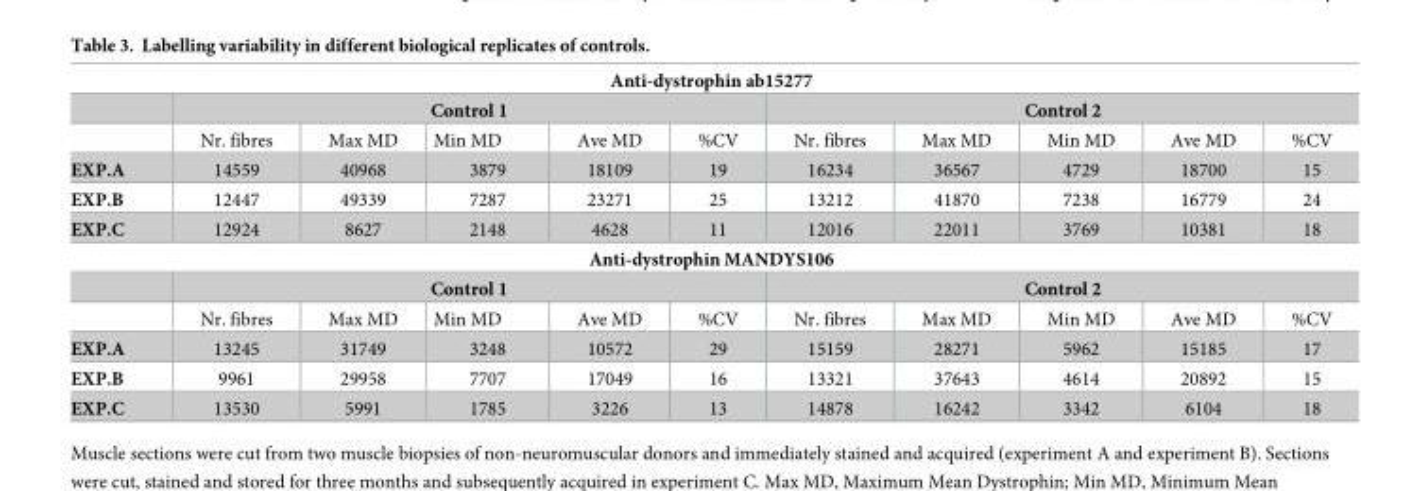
<table><tbody><tr><td colspan="11">Anti-dystrophin ab15277</td></tr><tr><td></td><td colspan="5">Control 1</td><td colspan="5">Control 2</td></tr><tr><td></td><td>Nr. fibres</td><td>Max MD</td><td>Min MD</td><td>Ave MD</td><td>%CV</td><td>Nr. fibres</td><td>Max MD</td><td>Min MD</td><td>Ave MD</td><td>%CV</td></tr><tr><td>EXP.A</td><td>14559</td><td>40968</td><td>3879</td><td>18109</td><td>19</td><td>16234</td><td>36567</td><td>4729</td><td>18700</td><td>15</td></tr><tr><td>EXP.B</td><td>12447</td><td>49339</td><td>7287</td><td>23271</td><td>25</td><td>13212</td><td>41870</td><td>7238</td><td>16779</td><td>24</td></tr><tr><td>EXP.C</td><td>12924</td><td>8627</td><td>2148</td><td>4628</td><td>11</td><td>12016</td><td>22011</td><td>3769</td><td>10381</td><td>18</td></tr><tr><td colspan="11">Anti-dystrophin MANDYS106</td></tr><tr><td></td><td colspan="5">Control 1</td><td colspan="5">Control 2</td></tr><tr><td></td><td>Nr. fibres</td><td>Max MD</td><td>Min MD</td><td>Ave MD</td><td>%CV</td><td>Nr. fibres</td><td>Max MD</td><td>Min MD</td><td>Ave MD</td><td>%CV</td></tr><tr><td>EXP.A</td><td>13245</td><td>31749</td><td>3248</td><td>10572</td><td>29</td><td>15159</td><td>28271</td><td>5962</td><td>15185</td><td>17</td></tr><tr><td>EXP.B</td><td>9961</td><td>29958</td><td>7707</td><td>17049</td><td>16</td><td>13321</td><td>37643</td><td>4614</td><td>20892</td><td>15</td></tr><tr><td>EXP.C</td><td>13530</td><td>5991</td><td>1785</td><td>3226</td><td>13</td><td>14878</td><td>16242</td><td>3342</td><td>6104</td><td>18</td></tr></tbody></table>